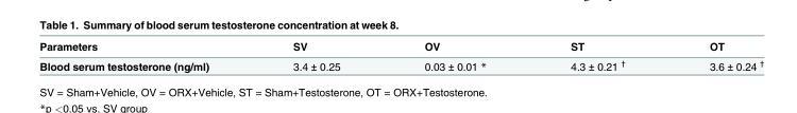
<table><thead><tr><td>Parameters</td><td>SV</td><td>OV</td><td>ST</td><td>OT</td></tr></thead><tbody><tr><td>Blood serum testosterone (ng/ml)</td><td>3.4 ± 0.25</td><td>0.03 ± 0.01 *</td><td>4.3 ± 0.21 <sup>†</sup></td><td>3.6 ± 0.24</td></tr></tbody></table>